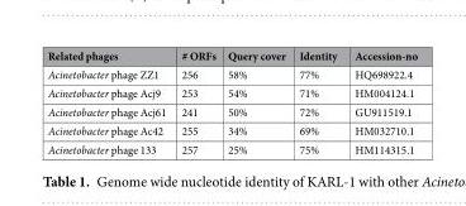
<table><thead><tr><td>Related phages</td><td># ORFs</td><td>Query cover</td><td>Identity</td><td>Accession-no</td></tr></thead><tbody><tr><td>Acinetobacter phage ZZ1</td><td>256</td><td>58%</td><td>77%</td><td>HQ698922.4</td></tr><tr><td>Acinetobacter phage Acj9</td><td>253</td><td>54%</td><td>71%</td><td>HM004124.1</td></tr><tr><td>Acinetobacter phage Acj61</td><td>241</td><td>50%</td><td>72%</td><td>GU911519.1</td></tr><tr><td>Acinetobacter phage Ac42</td><td>255</td><td>34%</td><td>69%</td><td>HM032710.1</td></tr><tr><td>Acinetobacter phage 133</td><td>257</td><td>25%</td><td>75%</td><td>HM114315.1</td></tr></tbody></table>